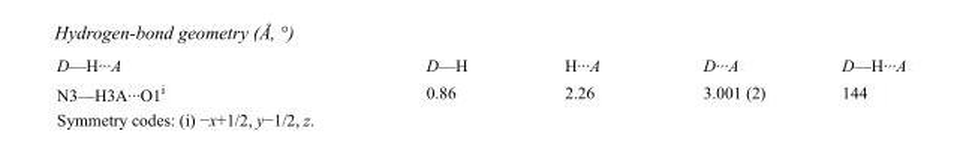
<table><tbody><tr><td>D—H···A</td><td>D—H</td><td>H···A</td><td>D···A</td><td>D—H···A</td></tr><tr><td>N3—H3A···O1<sup>i</sup></td><td>0.86</td><td>2.26</td><td>3.001 (2)</td><td>144</td></tr></tbody></table>